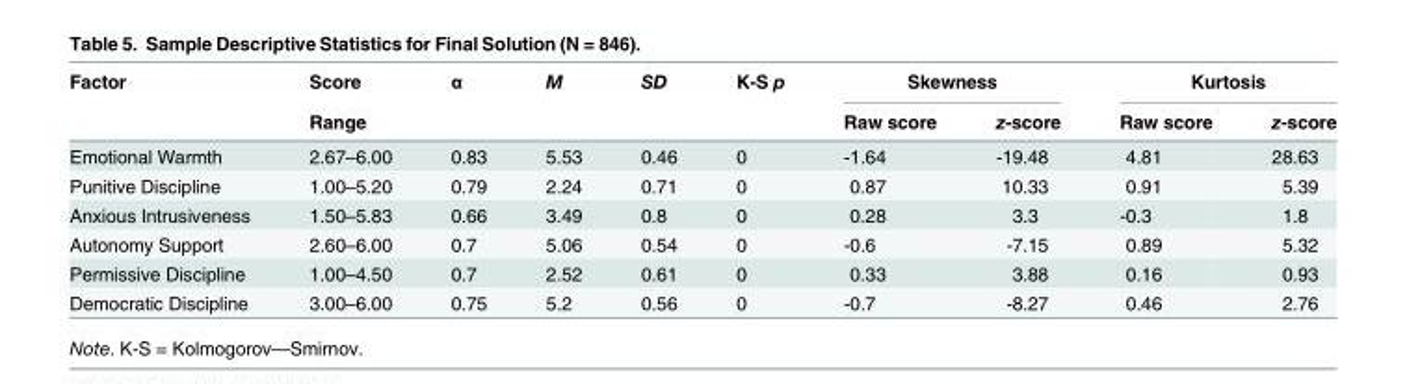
<table><thead><tr><td rowspan="2">Factor</td><td rowspan="2">Score Range</td><td rowspan="2">α</td><td rowspan="2">M</td><td rowspan="2">SD</td><td rowspan="2">K-S p</td><td colspan="2">Skewness</td><td colspan="2">Kurtosis</td></tr><tr><td>Raw score</td><td>z-score</td><td>Raw score</td><td>z-score</td></tr></thead><tbody><tr><td>Emotional Warmth</td><td>2.67–6.00</td><td>0.83</td><td>5.53</td><td>0.46</td><td>0</td><td>-1.64</td><td>-19.48</td><td>4.81</td><td>28.63</td></tr><tr><td>Punitive Discipline</td><td>1.00–5.20</td><td>0.79</td><td>2.24</td><td>0.71</td><td>0</td><td>0.87</td><td>10.33</td><td>0.91</td><td>5.39</td></tr><tr><td>Anxious Intrusiveness</td><td>1.50–5.83</td><td>0.66</td><td>3.49</td><td>0.8</td><td>0</td><td>0.28</td><td>3.3</td><td>-0.3</td><td>1.8</td></tr><tr><td>Autonomy Support</td><td>2.60–6.00</td><td>0.7</td><td>5.06</td><td>0.54</td><td>0</td><td>-0.6</td><td>-7.15</td><td>0.89</td><td>5.32</td></tr><tr><td>Permissive Discipline</td><td>1.00–4.50</td><td>0.7</td><td>2.52</td><td>0.61</td><td>0</td><td>0.33</td><td>3.88</td><td>0.16</td><td>0.93</td></tr><tr><td>Democratic Discipline</td><td>3.00–6.00</td><td>0.75</td><td>5.2</td><td>0.56</td><td>0</td><td>-0.7</td><td>-8.27</td><td>0.46</td><td>2.76</td></tr></tbody></table>